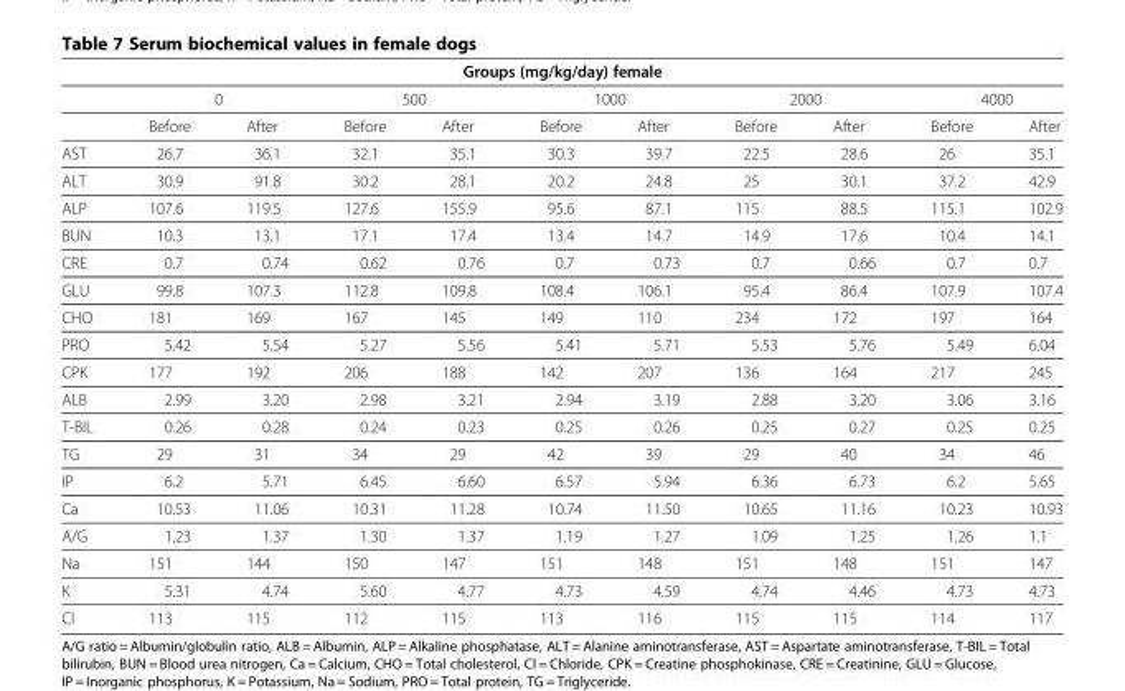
<table><thead><tr><td colspan="11">Groups (mg/kg/day) female</td></tr><tr><td rowspan="2"></td><td colspan="2">0</td><td colspan="2">500</td><td colspan="2">1000</td><td colspan="2">2000</td><td colspan="2">4000</td></tr><tr><td>Before</td><td>After</td><td>Before</td><td>After</td><td>Before</td><td>After</td><td>Before</td><td>After</td><td>Before</td><td>After</td></tr></thead><tbody><tr><td>AST</td><td>26.7</td><td>36.1</td><td>32.1</td><td>35.1</td><td>30.3</td><td>39.7</td><td>22.5</td><td>28.6</td><td>26</td><td>35.1</td></tr><tr><td>ALT</td><td>30.9</td><td>91.8</td><td>30.2</td><td>28.1</td><td>20.2</td><td>24.8</td><td>25</td><td>30.1</td><td>37.2</td><td>42.9</td></tr><tr><td>ALP</td><td>107.6</td><td>119.5</td><td>127.6</td><td>155.9</td><td>95.6</td><td>87.1</td><td>115</td><td>88.5</td><td>115.1</td><td>102.9</td></tr><tr><td>BUN</td><td>10.3</td><td>13.1</td><td>17.1</td><td>17.4</td><td>13.4</td><td>14.7</td><td>14.9</td><td>17.6</td><td>10.4</td><td>14.1</td></tr><tr><td>CRE</td><td>0.7</td><td>0.74</td><td>0.62</td><td>0.76</td><td>0.7</td><td>0.73</td><td>0.7</td><td>0.66</td><td>0.7</td><td>0.7</td></tr><tr><td>GLU</td><td>99.8</td><td>107.3</td><td>112.8</td><td>109.8</td><td>108.4</td><td>106.1</td><td>95.4</td><td>86.4</td><td>107.9</td><td>107.4</td></tr><tr><td>CHO</td><td>181</td><td>169</td><td>167</td><td>145</td><td>149</td><td>110</td><td>234</td><td>172</td><td>197</td><td>164</td></tr><tr><td>PRO</td><td>5.42</td><td>5.54</td><td>5.27</td><td>5.56</td><td>5.41</td><td>5.71</td><td>5.53</td><td>5.76</td><td>5.49</td><td>6.04</td></tr><tr><td>CPK</td><td>177</td><td>192</td><td>206</td><td>188</td><td>142</td><td>207</td><td>136</td><td>164</td><td>217</td><td>245</td></tr><tr><td>ALB</td><td>2.99</td><td>3.20</td><td>2.98</td><td>3.21</td><td>2.94</td><td>3.19</td><td>2.88</td><td>3.20</td><td>3.06</td><td>3.16</td></tr><tr><td>T-BIL</td><td>0.26</td><td>0.28</td><td>0.24</td><td>0.23</td><td>0.25</td><td>0.26</td><td>0.25</td><td>0.27</td><td>0.25</td><td>0.25</td></tr><tr><td>TG</td><td>29</td><td>31</td><td>34</td><td>29</td><td>42</td><td>39</td><td>29</td><td>40</td><td>34</td><td>46</td></tr><tr><td>IP</td><td>6.2</td><td>5.71</td><td>6.45</td><td>6.60</td><td>6.57</td><td>5.94</td><td>6.36</td><td>6.73</td><td>6.2</td><td>5.65</td></tr><tr><td>Ca</td><td>10.53</td><td>11.06</td><td>10.31</td><td>11.28</td><td>10.74</td><td>11.50</td><td>10.65</td><td>11.16</td><td>10.23</td><td>10.93</td></tr><tr><td>A/G</td><td>1.23</td><td>1.37</td><td>1.30</td><td>1.37</td><td>1.19</td><td>1.27</td><td>1.09</td><td>1.25</td><td>1.26</td><td>1.1</td></tr><tr><td>Na</td><td>151</td><td>144</td><td>150</td><td>147</td><td>151</td><td>148</td><td>151</td><td>148</td><td>151</td><td>147</td></tr><tr><td>K</td><td>5.31</td><td>4.74</td><td>5.60</td><td>4.77</td><td>4.73</td><td>4.59</td><td>4.74</td><td>4.46</td><td>4.73</td><td>4.73</td></tr><tr><td>Cl</td><td>113</td><td>115</td><td>112</td><td>115</td><td>113</td><td>116</td><td>115</td><td>115</td><td>114</td><td>117</td></tr></tbody></table>